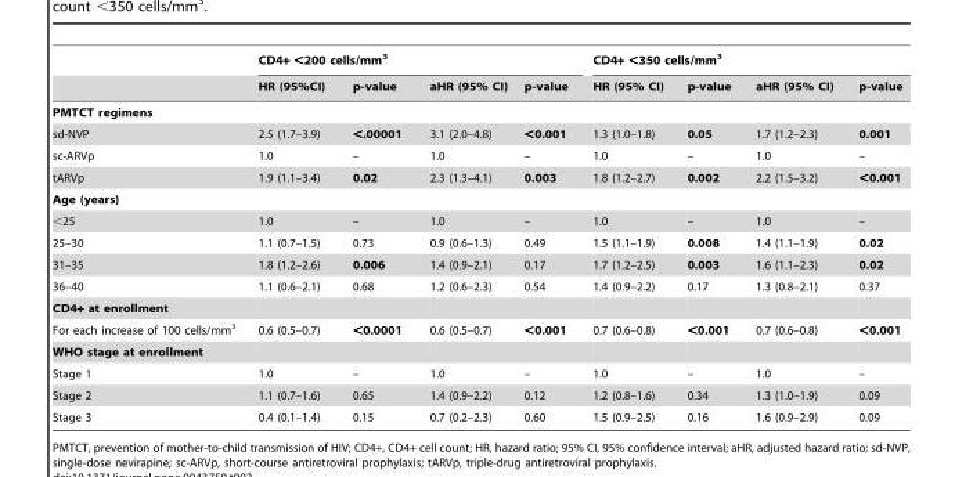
<table><thead><tr><td rowspan="2"></td><td colspan="4">CD4+ &lt;200 cells/mm<sup>3</sup></td><td colspan="4">CD4+ &lt;350 cells/mm<sup>3</sup></td></tr><tr><td>HR (95%CI)</td><td>p-value</td><td>aHR (95% CI)</td><td>p-value</td><td>HR (95% CI)</td><td>p-value</td><td>aHR (95% CI)</td><td>p-value</td></tr></thead><tbody><tr><td colspan="9">PMTCT regimens</td></tr><tr><td>sd-NVP</td><td>2.5 (1.7–3.9)</td><td>&lt;.00001</td><td>3.1 (2.0–4.8)</td><td>&lt;0.001</td><td>1.3 (1.0–1.8)</td><td>0.05</td><td>1.7 (1.2–2.3)</td><td>0.001</td></tr><tr><td>sc-ARVp</td><td>1.0</td><td>–</td><td>1.0</td><td>–</td><td>1.0</td><td>–</td><td>1.0</td><td>–</td></tr><tr><td>tARVp</td><td>1.9 (1.1–3.4)</td><td>0.02</td><td>2.3 (1.3–4.1)</td><td>0.003</td><td>1.8 (1.2–2.7)</td><td>0.002</td><td>2.2 (1.5–3.2)</td><td>&lt;0.001</td></tr><tr><td colspan="9">Age (years)</td></tr><tr><td>&lt;25</td><td>1.0</td><td>–</td><td>1.0</td><td>–</td><td>1.0</td><td>–</td><td>1.0</td><td>–</td></tr><tr><td>25–30</td><td>1.1 (0.7–1.5)</td><td>0.73</td><td>0.9 (0.6–1.3)</td><td>0.49</td><td>1.5 (1.1–1.9)</td><td>0.008</td><td>1.4 (1.1–1.9)</td><td>0.02</td></tr><tr><td>31–35</td><td>1.8 (1.2–2.6)</td><td>0.006</td><td>1.4 (0.9–2.1)</td><td>0.17</td><td>1.7 (1.2–2.5)</td><td>0.003</td><td>1.6 (1.1–2.3)</td><td>0.02</td></tr><tr><td>36–40</td><td>1.1 (0.6–2.1)</td><td>0.68</td><td>1.2 (0.6–2.3)</td><td>0.54</td><td>1.4 (0.9–2.2)</td><td>0.17</td><td>1.3 (0.8–2.1)</td><td>0.37</td></tr><tr><td colspan="9">CD4+ at enrollment</td></tr><tr><td>For each increase of 100 cells/mm<sup>3</sup></td><td>0.6 (0.5–0.7)</td><td>&lt;0.0001</td><td>0.6 (0.5–0.7)</td><td>&lt;0.001</td><td>0.7 (0.6–0.8)</td><td>&lt;0.001</td><td>0.7 (0.6–0.8)</td><td>&lt;0.001</td></tr><tr><td colspan="9">WHO stage at enrollment</td></tr><tr><td>Stage 1</td><td>1.0</td><td>–</td><td>1.0</td><td>–</td><td>1.0</td><td>–</td><td>1.0</td><td>–</td></tr><tr><td>Stage 2</td><td>1.1 (0.7–1.6)</td><td>0.65</td><td>1.4 (0.9–2.2)</td><td>0.12</td><td>1.2 (0.8–1.6)</td><td>0.34</td><td>1.3 (1.0–1.9)</td><td>0.09</td></tr><tr><td>Stage 3</td><td>0.4 (0.1–1.4)</td><td>0.15</td><td>0.7 (0.2–2.3)</td><td>0.60</td><td>1.5 (0.9–2.5)</td><td>0.16</td><td>1.6 (0.9–2.9)</td><td>0.09</td></tr></tbody></table>